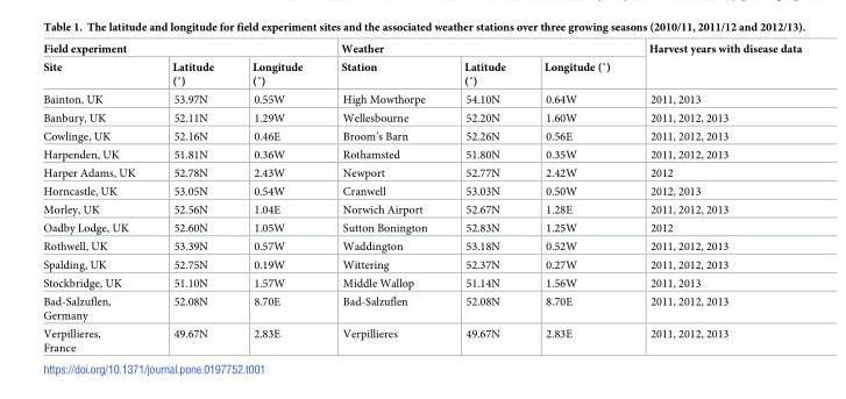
<table><thead><tr><td colspan="3">Field experiment</td><td colspan="3">Weather</td><td rowspan="2">Harvest years with disease data</td></tr><tr><td>Site</td><td>Latitude (˚)</td><td>Longitude (˚)</td><td>Station</td><td>Latitude (˚)</td><td>Longitude (˚)</td></tr></thead><tbody><tr><td>Bainton, UK</td><td>53.97N</td><td>0.55W</td><td>High Mowthorpe</td><td>54.10N</td><td>0.64W</td><td>2011, 2013</td></tr><tr><td>Banbury, UK</td><td>52.11N</td><td>1.29W</td><td>Wellesbourne</td><td>52.20N</td><td>1.60W</td><td>2011, 2012, 2013</td></tr><tr><td>Cowlinge, UK</td><td>52.16N</td><td>0.46E</td><td>Broom’s Barn</td><td>52.26N</td><td>0.56E</td><td>2011, 2012, 2013</td></tr><tr><td>Harpenden, UK</td><td>51.81N</td><td>0.36W</td><td>Rothamsted</td><td>51.80N</td><td>0.35W</td><td>2011, 2012, 2013</td></tr><tr><td>Harper Adams, UK</td><td>52.78N</td><td>2.43W</td><td>Newport</td><td>52.77N</td><td>2.42W</td><td>2012</td></tr><tr><td>Horncastle, UK</td><td>53.05N</td><td>0.54W</td><td>Cranwell</td><td>53.03N</td><td>0.50W</td><td>2012, 2013</td></tr><tr><td>Morley, UK</td><td>52.56N</td><td>1.04E</td><td>Norwich Airport</td><td>52.67N</td><td>1.28E</td><td>2011, 2012, 2013</td></tr><tr><td>Oadby Lodge, UK</td><td>52.60N</td><td>1.05W</td><td>Sutton Bonington</td><td>52.83N</td><td>1.25W</td><td>2012</td></tr><tr><td>Rothwell, UK</td><td>53.39N</td><td>0.57W</td><td>Waddington</td><td>53.18N</td><td>0.52W</td><td>2011, 2012, 2013</td></tr><tr><td>Spalding, UK</td><td>52.75N</td><td>0.19W</td><td>Wittering</td><td>52.37N</td><td>0.27W</td><td>2011, 2012, 2013</td></tr><tr><td>Stockbridge, UK</td><td>51.10N</td><td>1.57W</td><td>Middle Wallop</td><td>51.14N</td><td>1.56W</td><td>2011, 2013</td></tr><tr><td>Bad-Salzuflen, Germany</td><td>52.08N</td><td>8.70E</td><td>Bad-Salzuflen</td><td>52.08N</td><td>8.70E</td><td>2011, 2012, 2013</td></tr><tr><td>Verpillieres, France</td><td>49.67N</td><td>2.83E</td><td>Verpillieres</td><td>49.67N</td><td>2.83E</td><td>2011, 2012, 2013</td></tr></tbody></table>